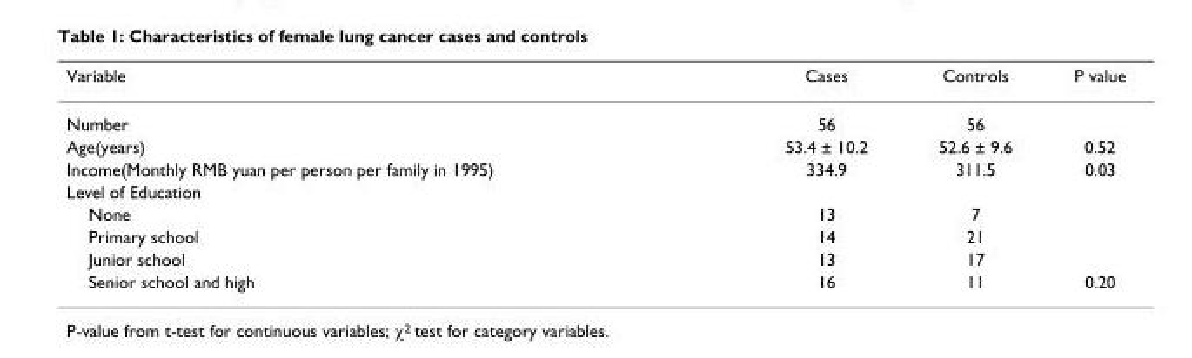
<table><thead><tr><td>Variable</td><td>Cases</td><td>Controls</td><td>P value</td></tr></thead><tbody><tr><td>Number</td><td>56</td><td>56</td><td></td></tr><tr><td>Age(years)</td><td>53.4 ± 10.2</td><td>52.6 ± 9.6</td><td>0.52</td></tr><tr><td>Income(Monthly RMB yuan per person per family in 1995)</td><td>334.9</td><td>311.5</td><td>0.03</td></tr><tr><td colspan="4">Level of Education</td></tr><tr><td>None</td><td>13</td><td>7</td><td></td></tr><tr><td>Primary school</td><td>14</td><td>21</td><td></td></tr><tr><td>Junior school</td><td>13</td><td>17</td><td></td></tr><tr><td>Senior school and high</td><td>16</td><td>11</td><td>0.20</td></tr></tbody></table>